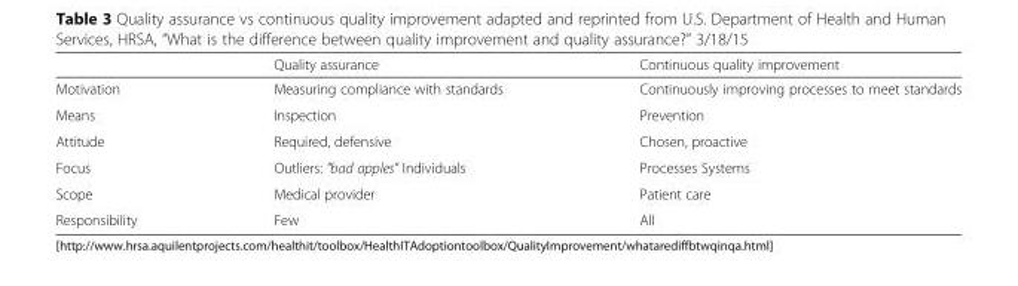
<table><thead><tr><td></td><td>Quality assurance</td><td>Continuous quality improvement</td></tr></thead><tbody><tr><td>Motivation</td><td>Measuring compliance with standards</td><td>Continuously improving processes to meet standards</td></tr><tr><td>Means</td><td>Inspection</td><td>Prevention</td></tr><tr><td>Attitude</td><td>Required, defensive</td><td>Chosen, proactive</td></tr><tr><td>Focus</td><td>Outliers: &quot;bad apples&quot; Individuals</td><td>Processes Systems</td></tr><tr><td>Scope</td><td>Medical provider</td><td>Patient care</td></tr><tr><td>Responsibility</td><td>Few</td><td>All</td></tr></tbody></table>